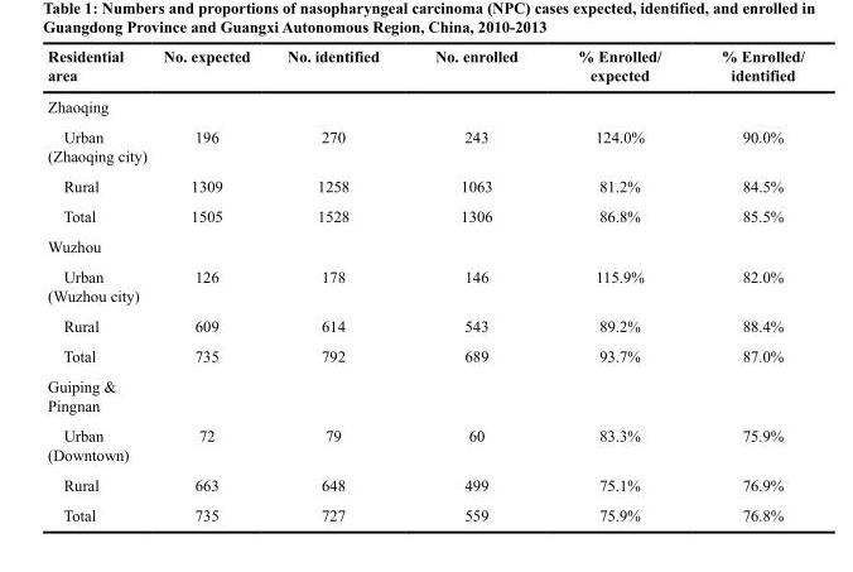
<table><thead><tr><td>Residential area</td><td>No. expected</td><td>No. identified</td><td>No. enrolled</td><td>% Enrolled/ expected</td><td>% Enrolled/ identified</td></tr></thead><tbody><tr><td colspan="6">Zhaoqing</td></tr><tr><td>Urban (Zhaoqing city)</td><td>196</td><td>270</td><td>243</td><td>124.0%</td><td>90.0%</td></tr><tr><td>Rural</td><td>1309</td><td>1258</td><td>1063</td><td>81.2%</td><td>84.5%</td></tr><tr><td>Total</td><td>1505</td><td>1528</td><td>1306</td><td>86.8%</td><td>85.5%</td></tr><tr><td colspan="6">Wuzhou</td></tr><tr><td>Urban (Wuzhou city)</td><td>126</td><td>178</td><td>146</td><td>115.9%</td><td>82.0%</td></tr><tr><td>Rural</td><td>609</td><td>614</td><td>543</td><td>89.2%</td><td>88.4%</td></tr><tr><td>Total</td><td>735</td><td>792</td><td>689</td><td>93.7%</td><td>87.0%</td></tr><tr><td colspan="6">Guiping &amp; Pingnan</td></tr><tr><td>Urban (Downtown)</td><td>72</td><td>79</td><td>60</td><td>83.3%</td><td>75.9%</td></tr><tr><td>Rural</td><td>663</td><td>648</td><td>499</td><td>75.1%</td><td>76.9%</td></tr><tr><td>Total</td><td>735</td><td>727</td><td>559</td><td>75.9%</td><td>76.8%</td></tr></tbody></table>